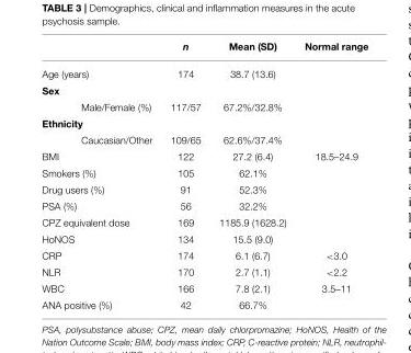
<table><thead><tr><td></td><td>n</td><td>Mean (SD)</td><td>Normal range</td></tr></thead><tbody><tr><td>Age (years)</td><td>174</td><td>38.7 (13.6)</td><td></td></tr><tr><td colspan="4">Sex</td></tr><tr><td>Male/Female (%)</td><td>117/57</td><td>67.2%/32.8%</td><td></td></tr><tr><td colspan="4">Ethnicity</td></tr><tr><td>Caucasian/Other</td><td>109/65</td><td>62.6%/37.4%</td><td></td></tr><tr><td>BMI</td><td>122</td><td>27.2 (6.4)</td><td>18.5–24.9</td></tr><tr><td>Smokers (%)</td><td>105</td><td>62.1%</td><td></td></tr><tr><td>Drug users (%)</td><td>91</td><td>52.3%</td><td></td></tr><tr><td>PSA (%)</td><td>56</td><td>32.2%</td><td></td></tr><tr><td>CPZ equivalent dose</td><td>169</td><td>1185.9 (1628.2)</td><td></td></tr><tr><td>HoNOS</td><td>134</td><td>15.5 (9.0)</td><td></td></tr><tr><td>CRP</td><td>174</td><td>6.1 (6.7)</td><td>&lt;3.0</td></tr><tr><td>NLR</td><td>170</td><td>2.7 (1.1)</td><td>&lt;2.2</td></tr><tr><td>WBC</td><td>166</td><td>7.8 (2.1)</td><td>3.5–11</td></tr><tr><td>ANA positive (%)</td><td>42</td><td>66.7%</td><td></td></tr></tbody></table>